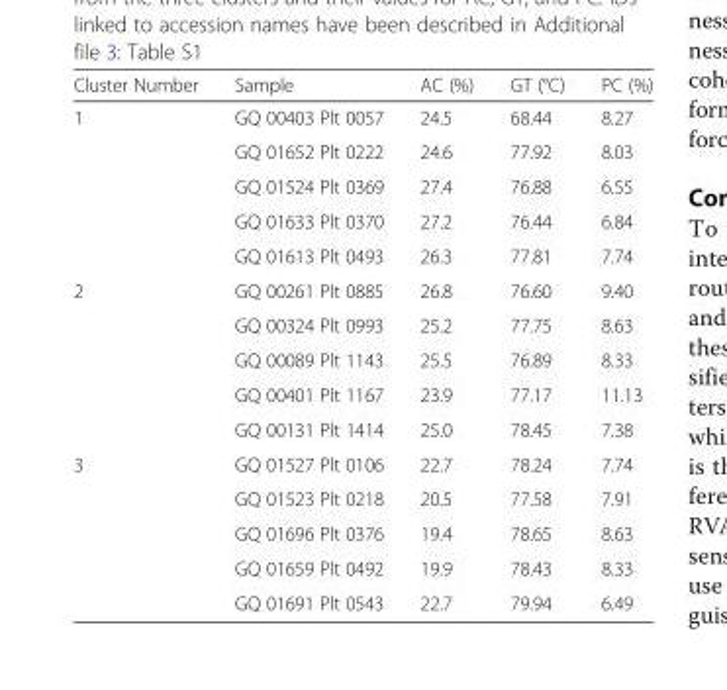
<table><thead><tr><td>Cluster Number</td><td>Sample</td><td>AC (%)</td><td>GT (°C)</td><td>PC (%)</td></tr></thead><tbody><tr><td rowspan="5">1</td><td>GQ 00403 Plt 0057</td><td>24.5</td><td>68.44</td><td>8.27</td></tr><tr><td>GQ 01652 Plt 0222</td><td>24.6</td><td>77.92</td><td>8.03</td></tr><tr><td>GQ 01524 Plt 0369</td><td>27.4</td><td>76.88</td><td>6.55</td></tr><tr><td>GQ 01633 Plt 0370</td><td>27.2</td><td>76.44</td><td>6.84</td></tr><tr><td>GQ 01613 Plt 0493</td><td>26.3</td><td>77.81</td><td>7.74</td></tr><tr><td rowspan="5">2</td><td>GQ 00261 Plt 0885</td><td>26.8</td><td>76.60</td><td>9.40</td></tr><tr><td>GQ 00324 Plt 0993</td><td>25.2</td><td>77.75</td><td>8.63</td></tr><tr><td>GQ 00089 Plt 1143</td><td>25.5</td><td>76.89</td><td>8.33</td></tr><tr><td>GQ 00401 Plt 1167</td><td>23.9</td><td>77.17</td><td>11.13</td></tr><tr><td>GQ 00131 Plt 1414</td><td>25.0</td><td>78.45</td><td>7.38</td></tr><tr><td rowspan="5">3</td><td>GQ 01527 Plt 0106</td><td>22.7</td><td>78.24</td><td>7.74</td></tr><tr><td>GQ 01523 Plt 0218</td><td>20.5</td><td>77.58</td><td>7.91</td></tr><tr><td>GQ 01696 Plt 0376</td><td>19.4</td><td>78.65</td><td>8.63</td></tr><tr><td>GQ 01659 Plt 0492</td><td>19.9</td><td>78.43</td><td>8.33</td></tr><tr><td>GQ 01691 Plt 0543</td><td>22.7</td><td>79.94</td><td>6.49</td></tr></tbody></table>